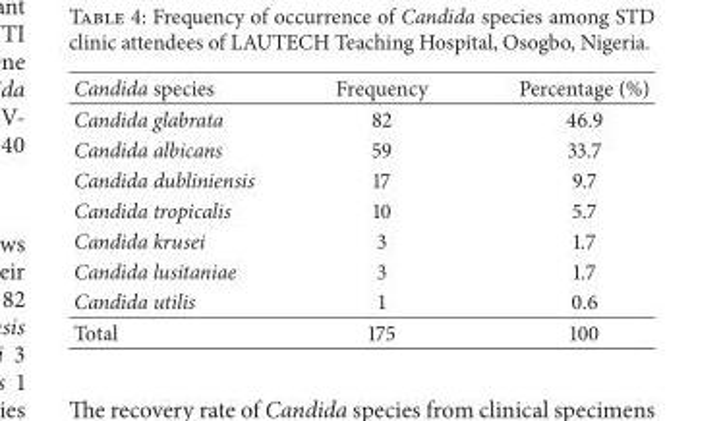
<table><thead><tr><td>Candida species</td><td>Frequency</td><td>Percentage (%)</td></tr></thead><tbody><tr><td>Candida glabrata</td><td>82</td><td>46.9</td></tr><tr><td>Candida albicans</td><td>59</td><td>33.7</td></tr><tr><td>Candida dubliniensis</td><td>17</td><td>9.7</td></tr><tr><td>Candida tropicalis</td><td>10</td><td>5.7</td></tr><tr><td>Candida krusei</td><td>3</td><td>1.7</td></tr><tr><td>Candida lusitaniae</td><td>3</td><td>1.7</td></tr><tr><td>Candida utilis</td><td>1</td><td>0.6</td></tr><tr><td>Total</td><td>175</td><td>100</td></tr></tbody></table>